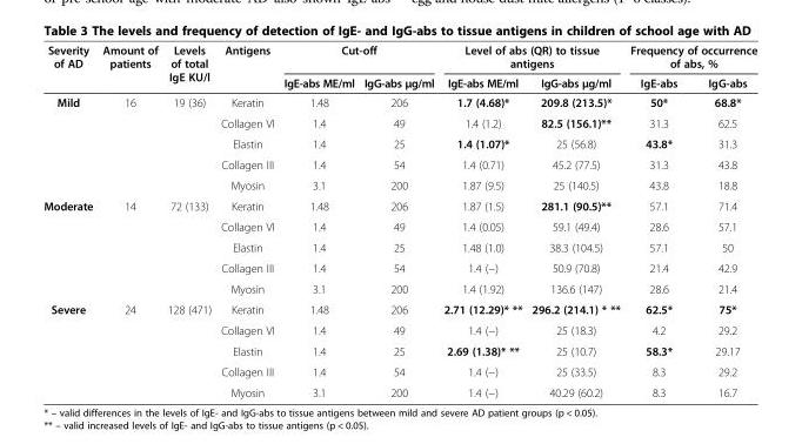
<table><thead><tr><td rowspan="2">Severity of AD</td><td rowspan="2">Amount of patients</td><td rowspan="2">Levels of total IgE KU/l</td><td rowspan="2">Antigens</td><td colspan="2">Cut-off</td><td colspan="2">Level of abs (QR) to tissue antigens</td><td colspan="2">Frequency of occurrence of abs, %</td></tr><tr><td>IgE-abs МЕ/ml</td><td>IgG-abs μg/ml</td><td>IgE-abs МЕ/ml</td><td>IgG-abs μg/ml</td><td>IgE-abs</td><td>IgG-abs</td></tr></thead><tbody><tr><td rowspan="5">Mild</td><td rowspan="5">16</td><td rowspan="5">19 (36)</td><td>Keratin</td><td>1.48</td><td>206</td><td>1.7 (4.68)*</td><td>209.8 (213.5)*</td><td>50*</td><td>68.8*</td></tr><tr><td>Collagen VI</td><td>1.4</td><td>49</td><td>1.4 (1.2)</td><td>82.5 (156.1)**</td><td>31.3</td><td>62.5</td></tr><tr><td>Elastin</td><td>1.4</td><td>25</td><td>1.4 (1.07)*</td><td>25 (56.8)</td><td>43.8*</td><td>31.3</td></tr><tr><td>Collagen III</td><td>1.4</td><td>54</td><td>1.4 (0.71)</td><td>45.2 (77.5)</td><td>31.3</td><td>43.8</td></tr><tr><td>Myosin</td><td>3.1</td><td>200</td><td>1.87 (9.5)</td><td>25 (140.5)</td><td>43.8</td><td>18.8</td></tr><tr><td rowspan="5">Moderate</td><td rowspan="5">14</td><td rowspan="5">72 (133)</td><td>Keratin</td><td>1.48</td><td>206</td><td>1.87 (1.5)</td><td>281.1 (90.5)**</td><td>57.1</td><td>71.4</td></tr><tr><td>Collagen VI</td><td>1.4</td><td>49</td><td>1.4 (0.05)</td><td>59.1 (49.4)</td><td>28.6</td><td>57.1</td></tr><tr><td>Elastin</td><td>1.4</td><td>25</td><td>1.48 (1.0)</td><td>38.3 (104.5)</td><td>57.1</td><td>50</td></tr><tr><td>Collagen III</td><td>1.4</td><td>54</td><td>1.4 (−)</td><td>50.9 (70.8)</td><td>21.4</td><td>42.9</td></tr><tr><td>Myosin</td><td>3.1</td><td>200</td><td>1.4 (1.92)</td><td>136.6 (147)</td><td>28.6</td><td>21.4</td></tr><tr><td rowspan="5">Severe</td><td rowspan="4">24</td><td rowspan="4">128 (471)</td><td>Keratin</td><td>1.48</td><td>206</td><td>2.71 (12.29)* **</td><td>296.2 (214.1) * **</td><td>62.5*</td><td>75*</td></tr><tr><td>Collagen VI</td><td>1.4</td><td>49</td><td>1.4 (−)</td><td>25 (18.3)</td><td>4.2</td><td>29.2</td></tr><tr><td>Elastin</td><td>1.4</td><td>25</td><td>2.69 (1.38)* **</td><td>25 (10.7)</td><td>58.3*</td><td>29.17</td></tr><tr><td>Collagen III</td><td>1.4</td><td>54</td><td>1.4 (−)</td><td>25 (33.5)</td><td>8.3</td><td>29.2</td></tr><tr><td></td><td></td><td>Myosin</td><td>3.1</td><td>200</td><td>1.4 (−)</td><td>40.29 (60.2)</td><td>8.3</td><td>16.7</td></tr></tbody></table>